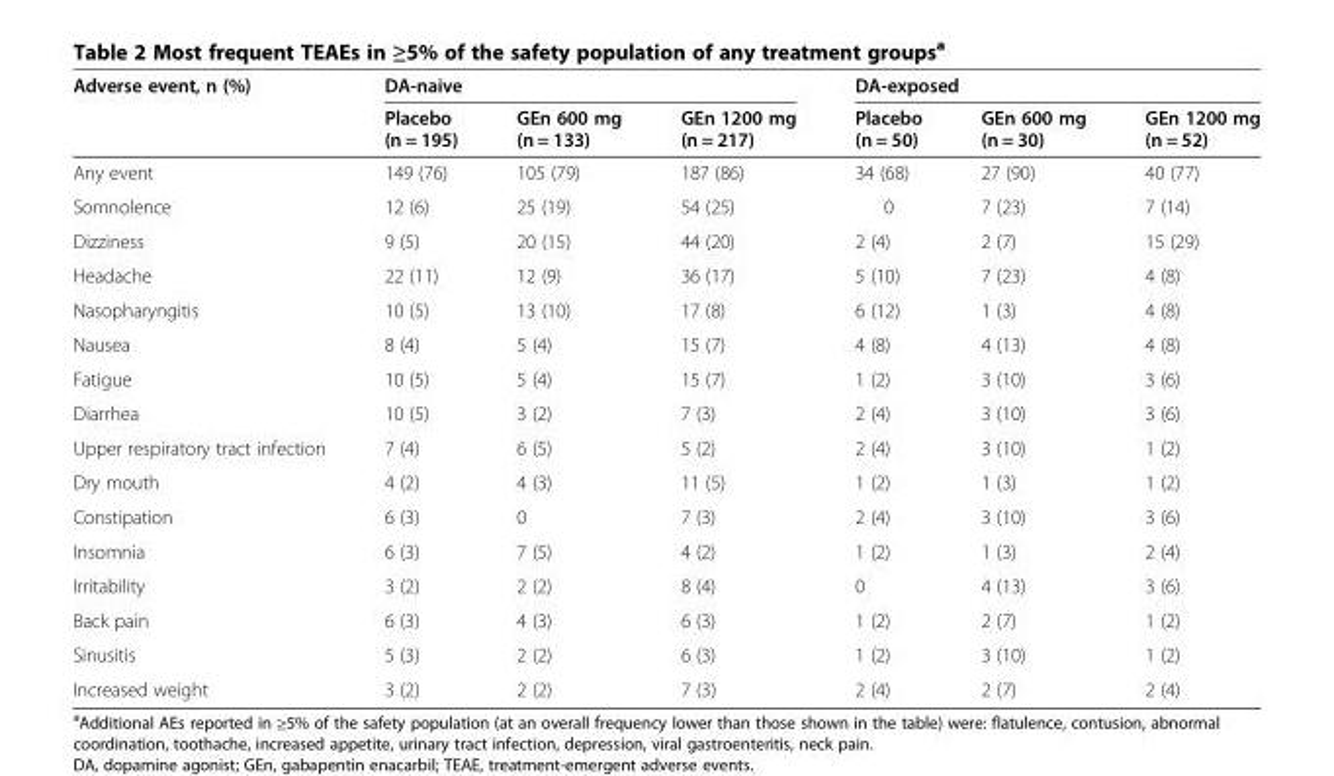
<table><thead><tr><td rowspan="2">Adverse event, n (%)</td><td colspan="3">DA-naive</td><td colspan="3">DA-exposed</td></tr><tr><td>Placebo (n = 195)</td><td>GEn 600 mg (n = 133)</td><td>GEn 1200 mg (n = 217)</td><td>Placebo (n = 50)</td><td>GEn 600 mg (n = 30)</td><td>GEn 1200 mg (n = 52)</td></tr></thead><tbody><tr><td>Any event</td><td>149 (76)</td><td>105 (79)</td><td>187 (86)</td><td>34 (68)</td><td>27 (90)</td><td>40 (77)</td></tr><tr><td>Somnolence</td><td>12 (6)</td><td>25 (19)</td><td>54 (25)</td><td>0</td><td>7 (23)</td><td>7 (14)</td></tr><tr><td>Dizziness</td><td>9 (5)</td><td>20 (15)</td><td>44 (20)</td><td>2 (4)</td><td>2 (7)</td><td>15 (29)</td></tr><tr><td>Headache</td><td>22 (11)</td><td>12 (9)</td><td>36 (17)</td><td>5 (10)</td><td>7 (23)</td><td>4 (8)</td></tr><tr><td>Nasopharyngitis</td><td>10 (5)</td><td>13 (10)</td><td>17 (8)</td><td>6 (12)</td><td>1 (3)</td><td>4 (8)</td></tr><tr><td>Nausea</td><td>8 (4)</td><td>5 (4)</td><td>15 (7)</td><td>4 (8)</td><td>4 (13)</td><td>4 (8)</td></tr><tr><td>Fatigue</td><td>10 (5)</td><td>5 (4)</td><td>15 (7)</td><td>1 (2)</td><td>3 (10)</td><td>3 (6)</td></tr><tr><td>Diarrhea</td><td>10 (5)</td><td>3 (2)</td><td>7 (3)</td><td>2 (4)</td><td>3 (10)</td><td>3 (6)</td></tr><tr><td>Upper respiratory tract infection</td><td>7 (4)</td><td>6 (5)</td><td>5 (2)</td><td>2 (4)</td><td>3 (10)</td><td>1 (2)</td></tr><tr><td>Dry mouth</td><td>4 (2)</td><td>4 (3)</td><td>11 (5)</td><td>1 (2)</td><td>1 (3)</td><td>1 (2)</td></tr><tr><td>Constipation</td><td>6 (3)</td><td>0</td><td>7 (3)</td><td>2 (4)</td><td>3 (10)</td><td>3 (6)</td></tr><tr><td>Insomnia</td><td>6 (3)</td><td>7 (5)</td><td>4 (2)</td><td>1 (2)</td><td>1 (3)</td><td>2 (4)</td></tr><tr><td>Irritability</td><td>3 (2)</td><td>2 (2)</td><td>8 (4)</td><td>0</td><td>4 (13)</td><td>3 (6)</td></tr><tr><td>Back pain</td><td>6 (3)</td><td>4 (3)</td><td>6 (3)</td><td>1 (2)</td><td>2 (7)</td><td>1 (2)</td></tr><tr><td>Sinusitis</td><td>5 (3)</td><td>2 (2)</td><td>6 (3)</td><td>1 (2)</td><td>3 (10)</td><td>1 (2)</td></tr><tr><td>Increased weight</td><td>3 (2)</td><td>2 (2)</td><td>7 (3)</td><td>2 (4)</td><td>2 (7)</td><td>2 (4)</td></tr></tbody></table>